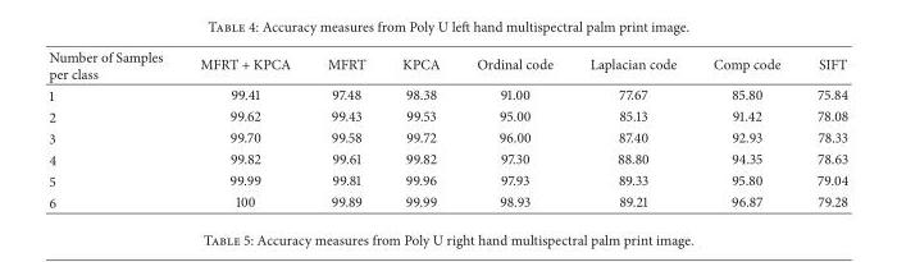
<table><thead><tr><td>Number of Samples per class</td><td>MFRT + KPCA</td><td>MFRT</td><td>KPCA</td><td>Ordinal code</td><td>Laplacian code</td><td>Comp code</td><td>SIFT</td></tr></thead><tbody><tr><td>1</td><td>99.41</td><td>97.48</td><td>98.38</td><td>91.00</td><td>77.67</td><td>85.80</td><td>75.84</td></tr><tr><td>2</td><td>99.62</td><td>99.43</td><td>99.53</td><td>95.00</td><td>85.13</td><td>91.42</td><td>78.08</td></tr><tr><td>3</td><td>99.70</td><td>99.58</td><td>99.72</td><td>96.00</td><td>87.40</td><td>92.93</td><td>78.33</td></tr><tr><td>4</td><td>99.82</td><td>99.61</td><td>99.82</td><td>97.30</td><td>88.80</td><td>94.35</td><td>78.63</td></tr><tr><td>5</td><td>99.99</td><td>99.81</td><td>99.96</td><td>97.93</td><td>89.33</td><td>95.80</td><td>79.04</td></tr><tr><td>6</td><td>100</td><td>99.89</td><td>99.99</td><td>98.93</td><td>89.21</td><td>96.87</td><td>79.28</td></tr></tbody></table>